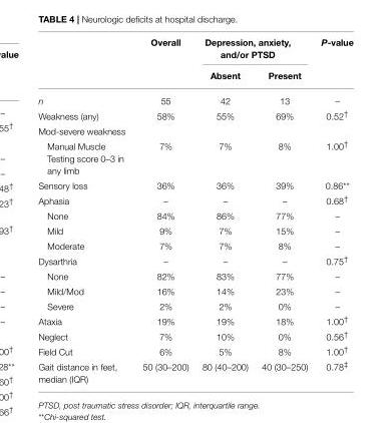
<table><thead><tr><td rowspan="2"></td><td rowspan="2">Overall</td><td colspan="2">Depression, anxiety, and/or PTSD</td><td rowspan="2">P-value</td></tr><tr><td>Absent</td><td>Present</td></tr></thead><tbody><tr><td>n</td><td>55</td><td>42</td><td>13</td><td>–</td></tr><tr><td>Weakness (any)</td><td>58%</td><td>55%</td><td>69%</td><td>0.52<sup>†</sup></td></tr><tr><td colspan="5">Mod-severe weakness</td></tr><tr><td>Manual Muscle Testing score 0–3 in any limb</td><td>7%</td><td>7%</td><td>8%</td><td>1.00<sup>†</sup></td></tr><tr><td>Sensory loss</td><td>36%</td><td>36%</td><td>39%</td><td>0.86**</td></tr><tr><td>Aphasia</td><td>–</td><td>–</td><td>–</td><td>0.68<sup>†</sup></td></tr><tr><td>None</td><td>84%</td><td>86%</td><td>77%</td><td>–</td></tr><tr><td>Mild</td><td>9%</td><td>7%</td><td>15%</td><td>–</td></tr><tr><td>Moderate</td><td>7%</td><td>7%</td><td>8%</td><td>–</td></tr><tr><td>Dysarthria</td><td>–</td><td>–</td><td>–</td><td>0.75<sup>†</sup></td></tr><tr><td>None</td><td>82%</td><td>83%</td><td>77%</td><td>–</td></tr><tr><td>Mild/Mod</td><td>16%</td><td>14%</td><td>23%</td><td>–</td></tr><tr><td>Severe</td><td>2%</td><td>2%</td><td>0%</td><td>–</td></tr><tr><td>Ataxia</td><td>19%</td><td>19%</td><td>18%</td><td>1.00<sup>†</sup></td></tr><tr><td>Neglect</td><td>7%</td><td>10%</td><td>0%</td><td>0.56<sup>†</sup></td></tr><tr><td>Field Cut</td><td>6%</td><td>5%</td><td>8%</td><td>1.00<sup>†</sup></td></tr><tr><td>Gait distance in feet, median (IQR)</td><td>50 (30–200)</td><td>80 (40–200)</td><td>40 (30–250)</td><td>0.78<sup>‡</sup></td></tr></tbody></table>